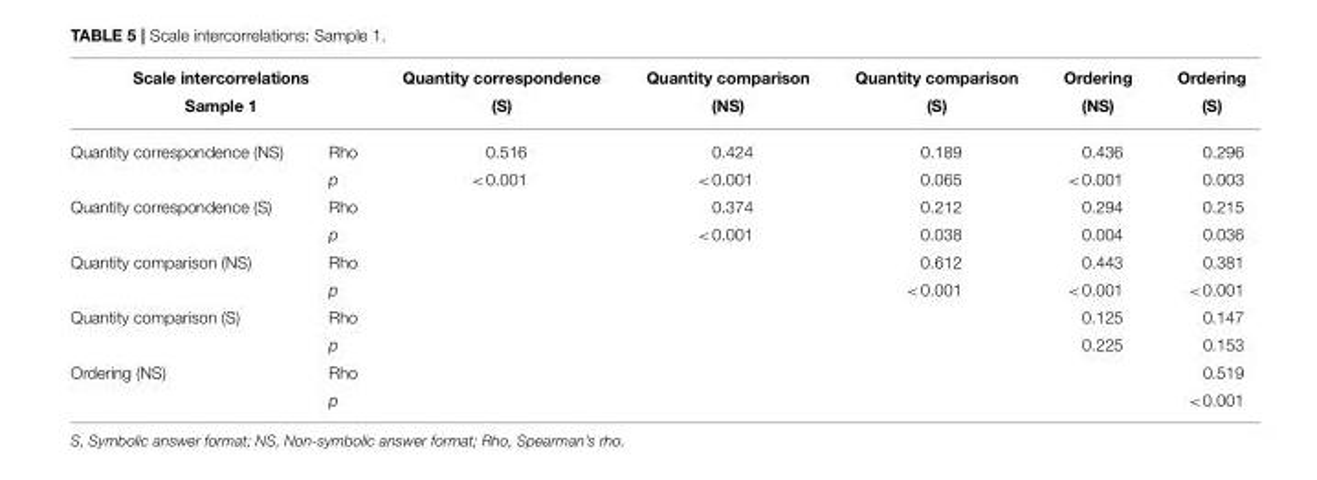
<table><thead><tr><td rowspan="2" colspan="2">Scale intercorrelations Sample 1</td><td rowspan="3">Quantity correspondence (S) 0.516</td><td rowspan="3">Quantity comparison (NS) 0.424</td><td rowspan="3">Quantity comparison (S) 0.189</td><td rowspan="3">Ordering (NS) 0.436</td><td rowspan="3">Ordering (S) 0.296</td></tr><tr></tr><tr><td>Quantity correspondence (NS)</td><td>Rho</td></tr></thead><tbody><tr><td></td><td>p</td><td>&lt;0.001</td><td>&lt;0.001</td><td>0.065</td><td>&lt;0.001</td><td>0.003</td></tr><tr><td rowspan="2">Quantity correspondence (S)</td><td>Rho</td><td></td><td>0.374</td><td>0.212</td><td>0.294</td><td>0.215</td></tr><tr><td>p</td><td></td><td>&lt;0.001</td><td>0.038</td><td>0.004</td><td>0.036</td></tr><tr><td rowspan="2">Quantity comparison (NS)</td><td>Rho</td><td></td><td></td><td>0.612</td><td>0.443</td><td>0.381</td></tr><tr><td>p</td><td></td><td></td><td>&lt;0.001</td><td>&lt;0.001</td><td>&lt;0.001</td></tr><tr><td rowspan="2">Quantity comparison (S)</td><td>Rho</td><td></td><td></td><td></td><td>0.125</td><td>0.147</td></tr><tr><td>p</td><td></td><td></td><td></td><td>0.225</td><td>0.153</td></tr><tr><td rowspan="2">Ordering (NS)</td><td>Rho</td><td></td><td></td><td></td><td></td><td>0.519</td></tr><tr><td>p</td><td></td><td></td><td></td><td></td><td>&lt;0.001</td></tr></tbody></table>